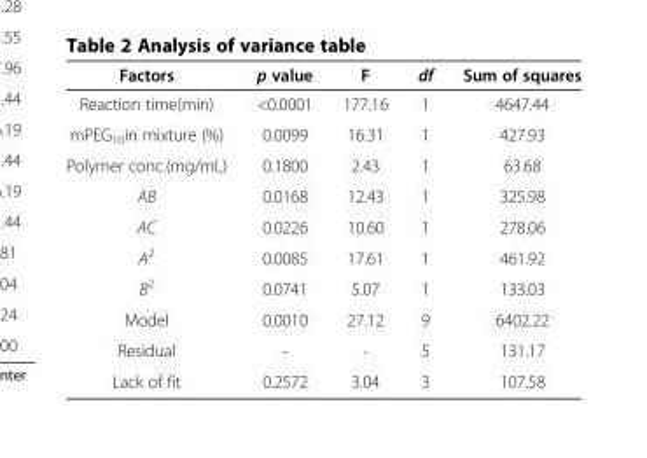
<table><thead><tr><td>Factors</td><td>p value</td><td>F</td><td>df</td><td>Sum of squares</td></tr></thead><tbody><tr><td>Reaction time(min)</td><td>&lt;0.0001</td><td>177.16</td><td>1</td><td>4647.44</td></tr><tr><td>mPEG<sub>10</sub>in mixture (%)</td><td>0.0099</td><td>16.31</td><td>1</td><td>427.93</td></tr><tr><td>Polymer conc.(mg/mL)</td><td>0.1800</td><td>2.43</td><td>1</td><td>63.68</td></tr><tr><td>AB</td><td>0.0168</td><td>12.43</td><td>1</td><td>325.98</td></tr><tr><td>AC</td><td>0.0226</td><td>10.60</td><td>1</td><td>278.06</td></tr><tr><td>A<sup>2</sup></td><td>0.0085</td><td>17.61</td><td>1</td><td>461.92</td></tr><tr><td>B<sup>2</sup></td><td>0.0741</td><td>5.07</td><td>1</td><td>133.03</td></tr><tr><td>Model</td><td>0.0010</td><td>27.12</td><td>9</td><td>6402.22</td></tr><tr><td>Residual</td><td>-</td><td>-</td><td>5</td><td>131.17</td></tr><tr><td>Lack of fit</td><td>0.2572</td><td>3.04</td><td>3</td><td>107.58</td></tr></tbody></table>